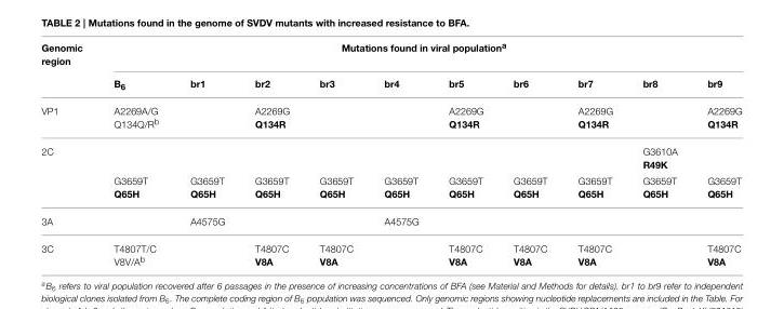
<table><thead><tr><td rowspan="2">Genomic region</td><td colspan="10">Mutations found in viral population<sup>a</sup></td></tr><tr><td>B<sub>6</sub></td><td>br1</td><td>br2</td><td>br3</td><td>br4</td><td>br5</td><td>br6</td><td>br7</td><td>br8</td><td>br9</td></tr></thead><tbody><tr><td>VP1</td><td>A2269A/G Q134Q/R<sup>b</sup></td><td></td><td>A2269G Q134R</td><td></td><td></td><td>A2269G Q134R</td><td></td><td>A2269G Q134R</td><td></td><td>A2269G Q134R</td></tr><tr><td rowspan="2">2C</td><td></td><td></td><td></td><td></td><td></td><td></td><td></td><td></td><td>G3610A R49K</td><td></td></tr><tr><td>G3659T Q65H</td><td>G3659T Q65H</td><td>G3659T Q65H</td><td>G3659T Q65H</td><td>G3659T Q65H</td><td>G3659T Q65H</td><td>G3659T Q65H</td><td>G3659T Q65H</td><td>G3659T Q65H</td><td>G3659T Q65H</td></tr><tr><td>3A</td><td></td><td>A4575G</td><td></td><td></td><td>A4575G</td><td></td><td></td><td></td><td></td><td></td></tr><tr><td>3C</td><td>T4807T/C V8V/A<sup>b</sup></td><td></td><td>T4807C V8A</td><td>T4807C V8A</td><td></td><td>T4807C V8A</td><td>T4807C V8A</td><td>T4807C V8A</td><td></td><td>T4807C V8A</td></tr></tbody></table>